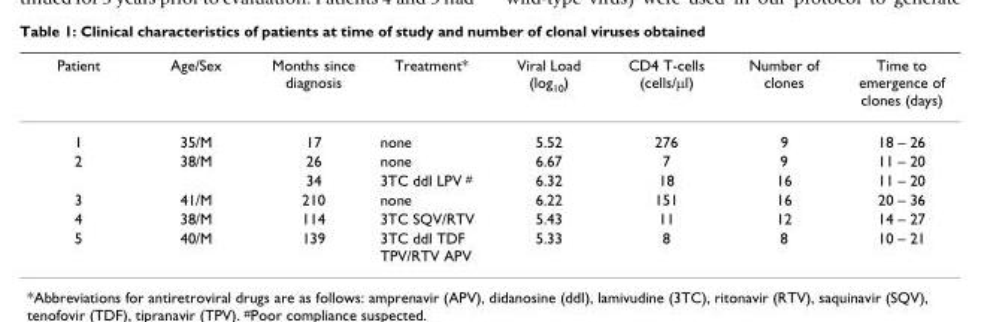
<table><thead><tr><td>Patient</td><td>Age/Sex</td><td>Months since diagnosis</td><td>Treatment*</td><td>Viral Load (log<sub>10</sub>)</td><td>CD4 T-cells (cells/μl)</td><td>Number of clones</td><td>Time to emergence of clones (days)</td></tr></thead><tbody><tr><td>1</td><td>35/M</td><td>17</td><td>none</td><td>5.52</td><td>276</td><td>9</td><td>18 – 26</td></tr><tr><td rowspan="2">2</td><td>38/M</td><td>26</td><td>none</td><td>6.67</td><td>7</td><td>9</td><td>11 – 20</td></tr><tr><td></td><td>34</td><td>3TC ddI LPV <sup>#</sup></td><td>6.32</td><td>18</td><td>16</td><td>11 – 20</td></tr><tr><td>3</td><td>41/M</td><td>210</td><td>none</td><td>6.22</td><td>151</td><td>16</td><td>20 – 36</td></tr><tr><td>4</td><td>38/M</td><td>114</td><td>3TC SQV/RTV</td><td>5.43</td><td>11</td><td>12</td><td>14 – 27</td></tr><tr><td>5</td><td>40/M</td><td>139</td><td>3TC ddI TDF TPV/RTV APV</td><td>5.33</td><td>8</td><td>8</td><td>10 – 21</td></tr></tbody></table>